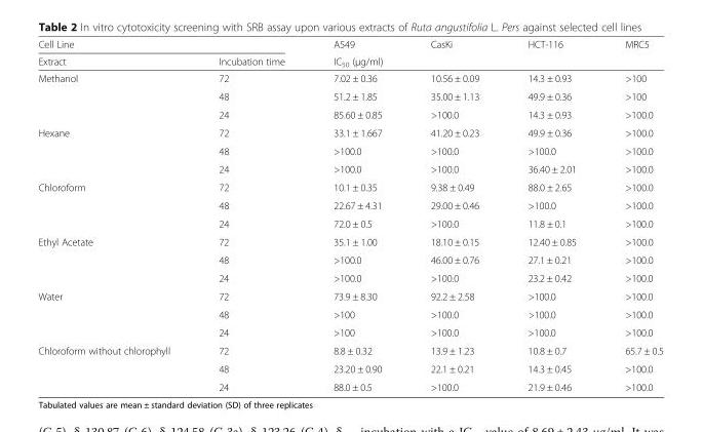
<table><thead><tr><td colspan="2">Cell Line</td><td>A549</td><td>CasKi</td><td>HCT-116</td><td>MRC5</td></tr><tr><td>Extract</td><td>Incubation time</td><td colspan="4">IC<sub>50</sub> (μg/ml)</td></tr></thead><tbody><tr><td rowspan="3">Methanol</td><td>72</td><td>7.02 ± 0.36</td><td>10.56 ± 0.09</td><td>14.3 ± 0.93</td><td>&gt;100</td></tr><tr><td>48</td><td>51.2 ± 1.85</td><td>35.00 ± 1.13</td><td>49.9 ± 0.36</td><td>&gt;100</td></tr><tr><td>24</td><td>85.60 ± 0.85</td><td>&gt;100.0</td><td>14.3 ± 0.93</td><td>&gt;100.0</td></tr><tr><td rowspan="3">Hexane</td><td>72</td><td>33.1 ± 1.667</td><td>41.20 ± 0.23</td><td>49.9 ± 0.36</td><td>&gt;100.0</td></tr><tr><td>48</td><td>&gt;100.0</td><td>&gt;100.0</td><td>&gt;100.0</td><td>&gt;100.0</td></tr><tr><td>24</td><td>&gt;100.0</td><td>&gt;100.0</td><td>36.40 ± 2.01</td><td>&gt;100.0</td></tr><tr><td rowspan="3">Chloroform</td><td>72</td><td>10.1 ± 0.35</td><td>9.38 ± 0.49</td><td>88.0 ± 2.65</td><td>&gt;100.0</td></tr><tr><td>48</td><td>22.67 ± 4.31</td><td>29.00 ± 0.46</td><td>&gt;100.0</td><td>&gt;100.0</td></tr><tr><td>24</td><td>72.0 ± 0.5</td><td>&gt;100.0</td><td>11.8 ± 0.1</td><td>&gt;100.0</td></tr><tr><td rowspan="3">Ethyl Acetate</td><td>72</td><td>35.1 ± 1.00</td><td>18.10 ± 0.15</td><td>12.40 ± 0.85</td><td>&gt;100.0</td></tr><tr><td>48</td><td>&gt;100.0</td><td>46.00 ± 0.76</td><td>27.1 ± 0.21</td><td>&gt;100.0</td></tr><tr><td>24</td><td>&gt;100.0</td><td>&gt;100.0</td><td>23.2 ± 0.42</td><td>&gt;100.0</td></tr><tr><td rowspan="3">Water</td><td>72</td><td>73.9 ± 8.30</td><td>92.2 ± 2.58</td><td>&gt;100.0</td><td>&gt;100.0</td></tr><tr><td>48</td><td>&gt;100</td><td>&gt;100.0</td><td>&gt;100.0</td><td>&gt;100.0</td></tr><tr><td>24</td><td>&gt;100</td><td>&gt;100.0</td><td>&gt;100.0</td><td>&gt;100.0</td></tr><tr><td rowspan="3">Chloroform without chlorophyll</td><td>72</td><td>8.8 ± 0.32</td><td>13.9 ± 1.23</td><td>10.8 ± 0.7</td><td>65.7 ± 0.5</td></tr><tr><td>48</td><td>23.20 ± 0.90</td><td>22.1 ± 0.21</td><td>14.3 ± 0.45</td><td>&gt;100.0</td></tr><tr><td>24</td><td>88.0 ± 0.5</td><td>&gt;100.0</td><td>21.9 ± 0.46</td><td>&gt;100.0</td></tr></tbody></table>